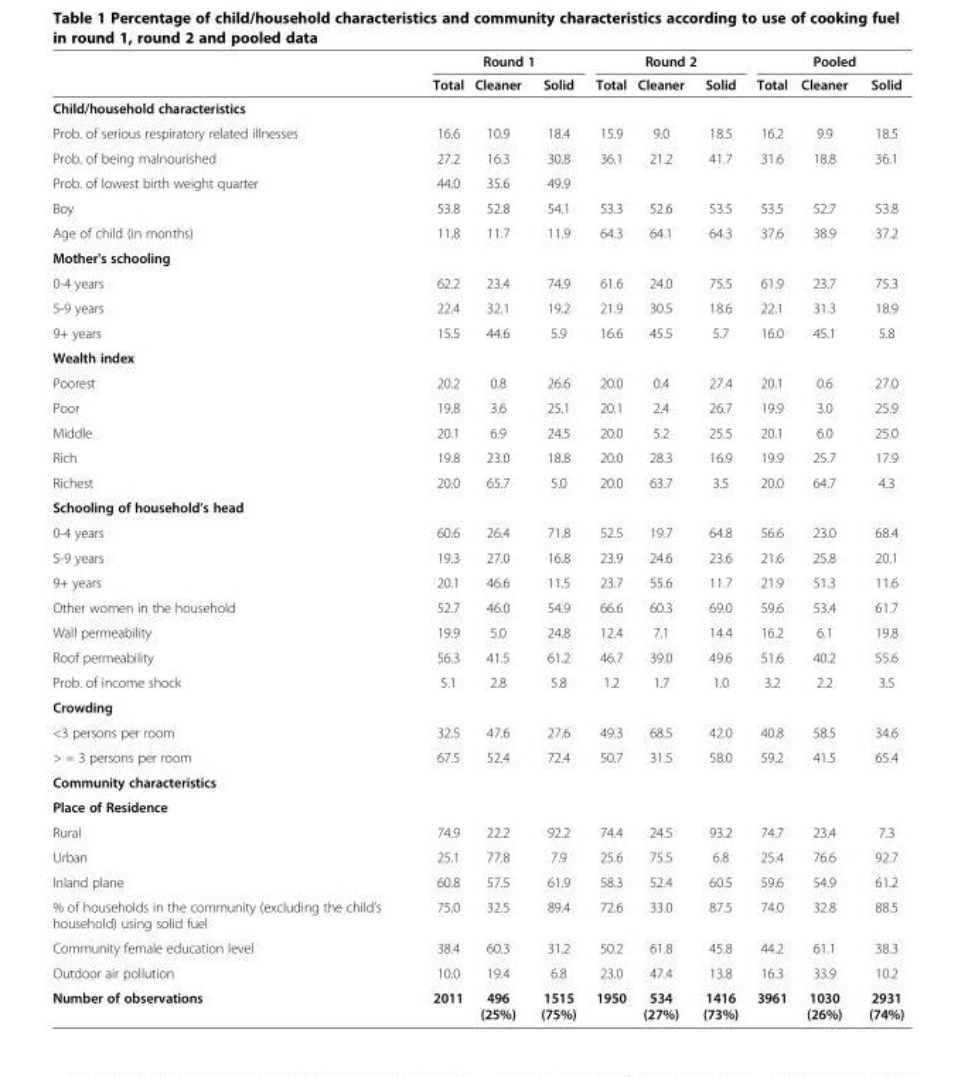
<table><thead><tr><td rowspan="2"></td><td colspan="3">Round 1</td><td colspan="3">Round 2</td><td colspan="3">Pooled</td></tr><tr><td>Total</td><td>Cleaner</td><td>Solid</td><td>Total</td><td>Cleaner</td><td>Solid</td><td>Total</td><td>Cleaner</td><td>Solid</td></tr></thead><tbody><tr><td colspan="10">Child/household characteristics</td></tr><tr><td>Prob. of serious respiratory related illnesses</td><td>16.6</td><td>10.9</td><td>18.4</td><td>15.9</td><td>9.0</td><td>18.5</td><td>16.2</td><td>9.9</td><td>18.5</td></tr><tr><td>Prob. of being malnourished</td><td>27.2</td><td>16.3</td><td>30.8</td><td>36.1</td><td>21.2</td><td>41.7</td><td>31.6</td><td>18.8</td><td>36.1</td></tr><tr><td>Prob. of lowest birth weight quarter</td><td>44.0</td><td>35.6</td><td>49.9</td><td></td><td></td><td></td><td></td><td></td><td></td></tr><tr><td>Boy</td><td>53.8</td><td>52.8</td><td>54.1</td><td>53.3</td><td>52.6</td><td>53.5</td><td>53.5</td><td>52.7</td><td>53.8</td></tr><tr><td>Age of child (in months)</td><td>11.8</td><td>11.7</td><td>11.9</td><td>64.3</td><td>64.1</td><td>64.3</td><td>37.6</td><td>38.9</td><td>37.2</td></tr><tr><td colspan="10">Mother&#x27;s schooling</td></tr><tr><td>0-4 years</td><td>62.2</td><td>23.4</td><td>74.9</td><td>61.6</td><td>24.0</td><td>75.5</td><td>61.9</td><td>23.7</td><td>75.3</td></tr><tr><td>5-9 years</td><td>22.4</td><td>32.1</td><td>19.2</td><td>21.9</td><td>30.5</td><td>18.6</td><td>22.1</td><td>31.3</td><td>18.9</td></tr><tr><td>9+ years</td><td>15.5</td><td>44.6</td><td>5.9</td><td>16.6</td><td>45.5</td><td>5.7</td><td>16.0</td><td>45.1</td><td>5.8</td></tr><tr><td colspan="10">Wealth index</td></tr><tr><td>Poorest</td><td>20.2</td><td>0.8</td><td>26.6</td><td>20.0</td><td>0.4</td><td>27.4</td><td>20.1</td><td>0.6</td><td>27.0</td></tr><tr><td>Poor</td><td>19.8</td><td>3.6</td><td>25.1</td><td>20.1</td><td>2.4</td><td>26.7</td><td>19.9</td><td>3.0</td><td>25.9</td></tr><tr><td>Middle</td><td>20.1</td><td>6.9</td><td>24.5</td><td>20.0</td><td>5.2</td><td>25.5</td><td>20.1</td><td>6.0</td><td>25.0</td></tr><tr><td>Rich</td><td>19.8</td><td>23.0</td><td>18.8</td><td>20.0</td><td>28.3</td><td>16.9</td><td>19.9</td><td>25.7</td><td>17.9</td></tr><tr><td>Richest</td><td>20.0</td><td>65.7</td><td>5.0</td><td>20.0</td><td>63.7</td><td>3.5</td><td>20.0</td><td>64.7</td><td>4.3</td></tr><tr><td colspan="10">Schooling of household’s head</td></tr><tr><td>0-4 years</td><td>60.6</td><td>26.4</td><td>71.8</td><td>52.5</td><td>19.7</td><td>64.8</td><td>56.6</td><td>23.0</td><td>68.4</td></tr><tr><td>5-9 years</td><td>19.3</td><td>27.0</td><td>16.8</td><td>23.9</td><td>24.6</td><td>23.6</td><td>21.6</td><td>25.8</td><td>20.1</td></tr><tr><td>9+ years</td><td>20.1</td><td>46.6</td><td>11.5</td><td>23.7</td><td>55.6</td><td>11.7</td><td>21.9</td><td>51.3</td><td>11.6</td></tr><tr><td>Other women in the household</td><td>52.7</td><td>46.0</td><td>54.9</td><td>66.6</td><td>60.3</td><td>69.0</td><td>59.6</td><td>53.4</td><td>61.7</td></tr><tr><td>Wall permeability</td><td>19.9</td><td>5.0</td><td>24.8</td><td>12.4</td><td>7.1</td><td>14.4</td><td>16.2</td><td>6.1</td><td>19.8</td></tr><tr><td>Roof permeability</td><td>56.3</td><td>41.5</td><td>61.2</td><td>46.7</td><td>39.0</td><td>49.6</td><td>51.6</td><td>40.2</td><td>55.6</td></tr><tr><td>Prob. of income shock</td><td>5.1</td><td>2.8</td><td>5.8</td><td>1.2</td><td>1.7</td><td>1.0</td><td>3.2</td><td>2.2</td><td>3.5</td></tr><tr><td colspan="10">Crowding</td></tr><tr><td>&lt;3 persons per room</td><td>32.5</td><td>47.6</td><td>27.6</td><td>49.3</td><td>68.5</td><td>42.0</td><td>40.8</td><td>58.5</td><td>34.6</td></tr><tr><td>&gt; = 3 persons per room</td><td>67.5</td><td>52.4</td><td>72.4</td><td>50.7</td><td>31.5</td><td>58.0</td><td>59.2</td><td>41.5</td><td>65.4</td></tr><tr><td colspan="10">Community characteristics</td></tr><tr><td colspan="10">Place of Residence</td></tr><tr><td>Rural</td><td>74.9</td><td>22.2</td><td>92.2</td><td>74.4</td><td>24.5</td><td>93.2</td><td>74.7</td><td>23.4</td><td>7.3</td></tr><tr><td>Urban</td><td>25.1</td><td>77.8</td><td>7.9</td><td>25.6</td><td>75.5</td><td>6.8</td><td>25.4</td><td>76.6</td><td>92.7</td></tr><tr><td>Inland plane</td><td>60.8</td><td>57.5</td><td>61.9</td><td>58.3</td><td>52.4</td><td>60.5</td><td>59.6</td><td>54.9</td><td>61.2</td></tr><tr><td>% of households in the community (excluding the child’s household) using solid fuel</td><td>75.0</td><td>32.5</td><td>89.4</td><td>72.6</td><td>33.0</td><td>87.5</td><td>74.0</td><td>32.8</td><td>88.5</td></tr><tr><td>Community female education level</td><td>38.4</td><td>60.3</td><td>31.2</td><td>50.2</td><td>61.8</td><td>45.8</td><td>44.2</td><td>61.1</td><td>38.3</td></tr><tr><td>Outdoor air pollution</td><td>10.0</td><td>19.4</td><td>6.8</td><td>23.0</td><td>47.4</td><td>13.8</td><td>16.3</td><td>33.9</td><td>10.2</td></tr><tr><td>Number of observations</td><td>2011</td><td>496 (25%)</td><td>1515 (75%)</td><td>1950</td><td>534 (27%)</td><td>1416 (73%)</td><td>3961</td><td>1030 (26%)</td><td>2931 (74%)</td></tr></tbody></table>